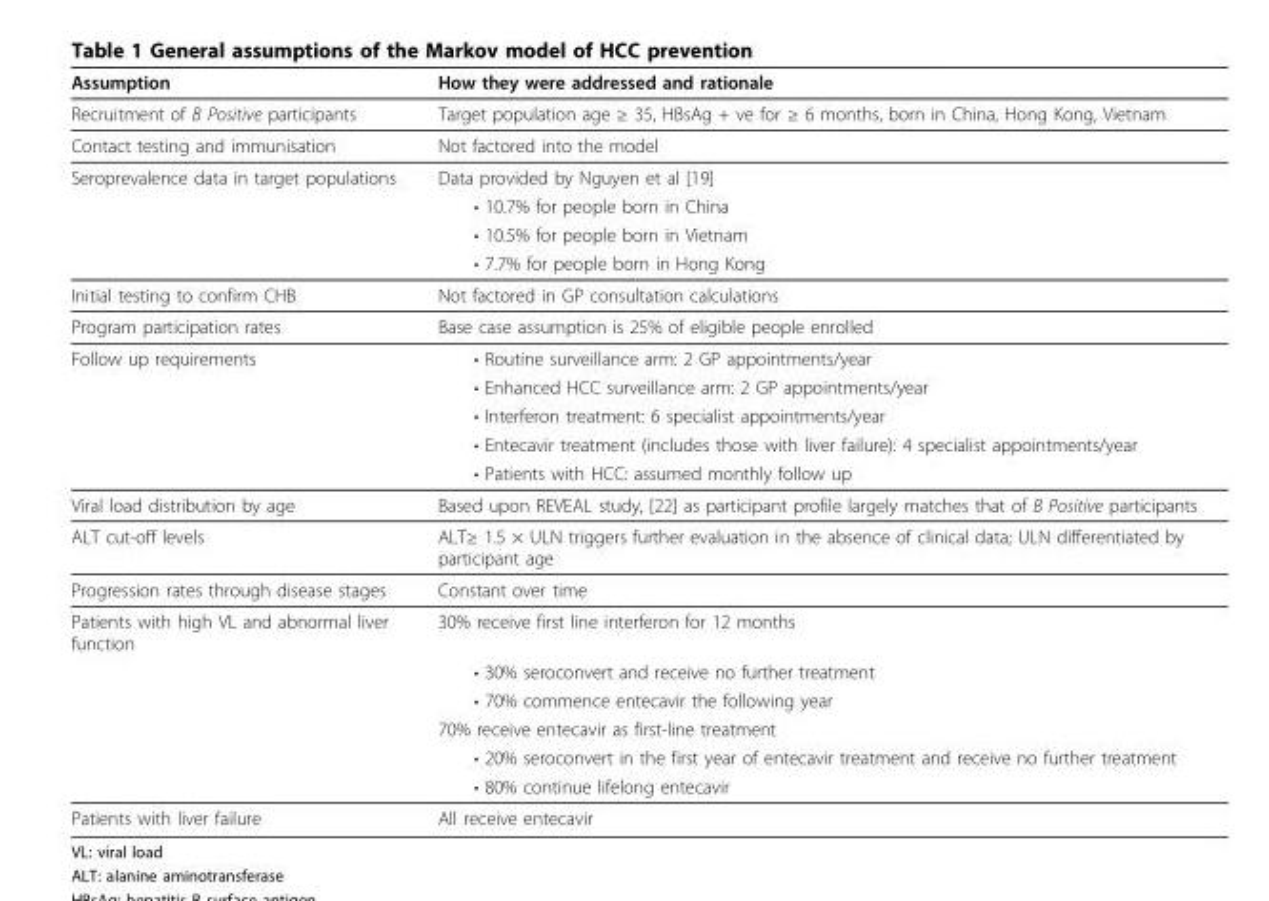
<table><thead><tr><td>Assumption</td><td>How they were addressed and rationale</td></tr></thead><tbody><tr><td>Recruitment of B Positive participants</td><td>Target population age ≥ 35, HBsAg + ve for ≥ 6 months, born in China, Hong Kong, Vietnam</td></tr><tr><td>Contact testing and immunisation</td><td>Not factored into the model</td></tr><tr><td rowspan="4">Seroprevalence data in target populations</td><td>Data provided by Nguyen et al [19]</td></tr><tr><td>• 10.7% for people born in China</td></tr><tr><td>• 10.5% for people born in Vietnam</td></tr><tr><td>• 7.7% for people born in Hong Kong</td></tr><tr><td>Initial testing to confirm CHB</td><td>Not factored in GP consultation calculations</td></tr><tr><td>Program participation rates</td><td>Base case assumption is 25% of eligible people enrolled</td></tr><tr><td rowspan="5">Follow up requirements</td><td>• Routine surveillance arm: 2 GP appointments/year</td></tr><tr><td>• Enhanced HCC surveillance arm: 2 GP appointments/year</td></tr><tr><td>• Interferon treatment: 6 specialist appointments/year</td></tr><tr><td>• Entecavir treatment (includes those with liver failure): 4 specialist appointments/year</td></tr><tr><td>• Patients with HCC: assumed monthly follow up</td></tr><tr><td>Viral load distribution by age</td><td>Based upon REVEAL study, [22] as participant profile largely matches that of B Positive participants</td></tr><tr><td>ALT cut-off levels</td><td>ALT≥ 1.5 × ULN triggers further evaluation in the absence of clinical data; ULN differentiated by participant age</td></tr><tr><td>Progression rates through disease stages</td><td>Constant over time</td></tr><tr><td rowspan="6">Patients with high VL and abnormal liver function</td><td>30% receive first line interferon for 12 months</td></tr><tr><td>• 30% seroconvert and receive no further treatment</td></tr><tr><td>• 70% commence entecavir the following year</td></tr><tr><td>70% receive entecavir as first-line treatment</td></tr><tr><td>• 20% seroconvert in the first year of entecavir treatment and receive no further treatment</td></tr><tr><td>• 80% continue lifelong entecavir</td></tr><tr><td>Patients with liver failure</td><td>All receive entecavir</td></tr></tbody></table>